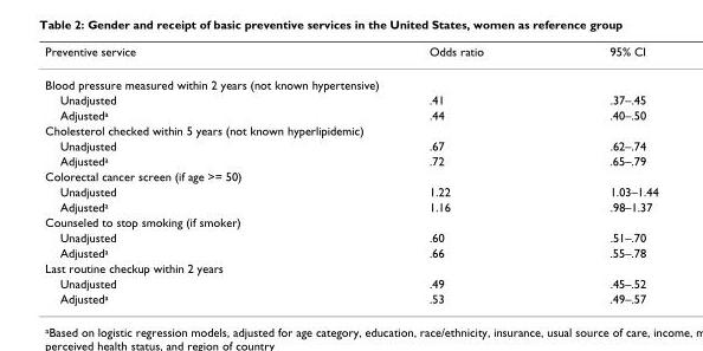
<table><thead><tr><td>Preventive service</td><td>Odds ratio</td><td>95% CI</td></tr></thead><tbody><tr><td colspan="3">Blood pressure measured within 2 years (not known hypertensive)</td></tr><tr><td>Unadjusted</td><td>.41</td><td>.37–.45</td></tr><tr><td>Adjusteda</td><td>.44</td><td>.40–.50</td></tr><tr><td colspan="3">Cholesterol checked within 5 years (not known hyperlipidemic)</td></tr><tr><td>Unadjusted</td><td>.67</td><td>.62–.74</td></tr><tr><td>Adjusteda</td><td>.72</td><td>.65–.79</td></tr><tr><td colspan="3">Colorectal cancer screen (if age &gt;= 50)</td></tr><tr><td>Unadjusted</td><td>1.22</td><td>1.03–1.44</td></tr><tr><td>Adjusteda</td><td>1.16</td><td>.98–1.37</td></tr><tr><td colspan="3">Counseled to stop smoking (if smoker)</td></tr><tr><td>Unadjusted</td><td>.60</td><td>.51–.70</td></tr><tr><td>Adjusteda</td><td>.66</td><td>.55–.78</td></tr><tr><td colspan="3">Last routine checkup within 2 years</td></tr><tr><td>Unadjusted</td><td>.49</td><td>.45–.52</td></tr><tr><td>Adjusteda</td><td>.53</td><td>.49–.57</td></tr></tbody></table>